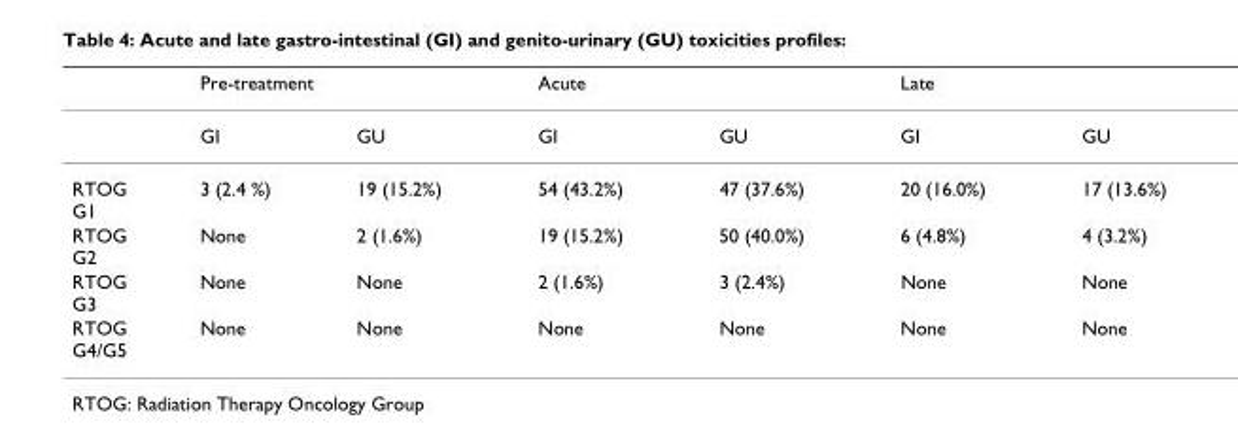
<table><thead><tr><td rowspan="2"></td><td colspan="2">Pre-treatment</td><td colspan="2">Acute</td><td colspan="2">Late</td></tr><tr><td>GI</td><td>GU</td><td>GI</td><td>GU</td><td>GI</td><td>GU</td></tr></thead><tbody><tr><td>RTOG G1</td><td>3 (2.4 %)</td><td>19 (15.2%)</td><td>54 (43.2%)</td><td>47 (37.6%)</td><td>20 (16.0%)</td><td>17 (13.6%)</td></tr><tr><td>RTOG G2</td><td>None</td><td>2 (1.6%)</td><td>19 (15.2%)</td><td>50 (40.0%)</td><td>6 (4.8%)</td><td>4 (3.2%)</td></tr><tr><td>RTOG G3</td><td>None</td><td>None</td><td>2 (1.6%)</td><td>3 (2.4%)</td><td>None</td><td>None</td></tr><tr><td>RTOG G4/G5</td><td>None</td><td>None</td><td>None</td><td>None</td><td>None</td><td>None</td></tr></tbody></table>